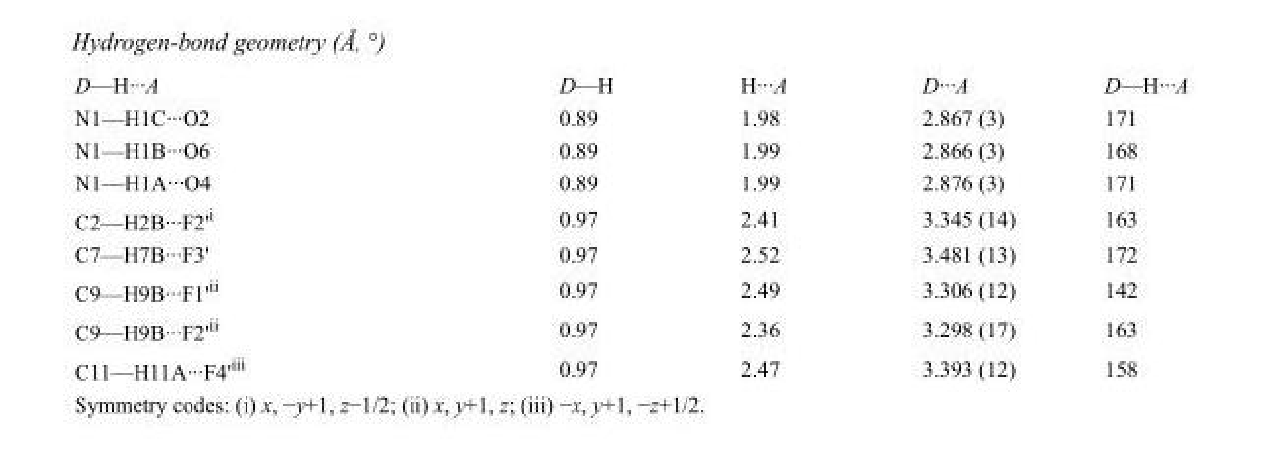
<table><tbody><tr><td>D—H···A</td><td>D—H</td><td>H···A</td><td>D···A</td><td>D—H···A</td></tr><tr><td>N1—H1C···O2</td><td>0.89</td><td>1.98</td><td>2.867 (3)</td><td>171</td></tr><tr><td>N1—H1B···O6</td><td>0.89</td><td>1.99</td><td>2.866 (3)</td><td>168</td></tr><tr><td>N1—H1A···O4</td><td>0.89</td><td>1.99</td><td>2.876 (3)</td><td>171</td></tr><tr><td>C2—H2B···F2&#x27;<sup>i</sup></td><td>0.97</td><td>2.41</td><td>3.345 (14)</td><td>163</td></tr><tr><td>C7—H7B···F3&#x27;</td><td>0.97</td><td>2.52</td><td>3.481 (13)</td><td>172</td></tr><tr><td>C9—H9B···F1&#x27;<sup>ii</sup></td><td>0.97</td><td>2.49</td><td>3.306 (12)</td><td>142</td></tr><tr><td>C9—H9B···F2&#x27;<sup>ii</sup></td><td>0.97</td><td>2.36</td><td>3.298 (17)</td><td>163</td></tr><tr><td>C11—H11A···F4&#x27;<sup>iii</sup></td><td>0.97</td><td>2.47</td><td>3.393 (12)</td><td>158</td></tr></tbody></table>